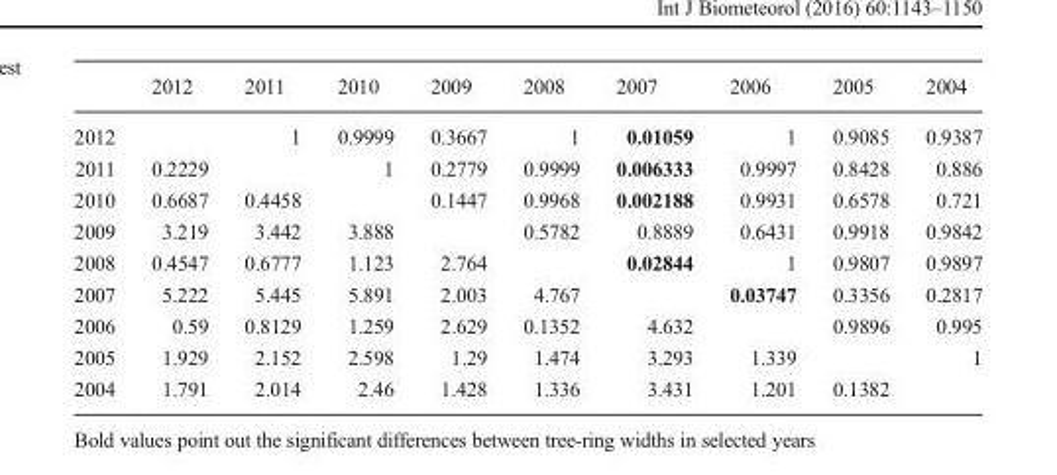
<table><thead><tr><td></td><td>2012</td><td>2011</td><td>2010</td><td>2009</td><td>2008</td><td>2007</td><td>2006</td><td>2005</td><td>2004</td></tr></thead><tbody><tr><td>2012</td><td></td><td>1</td><td>0.9999</td><td>0.3667</td><td>1</td><td>0.01059</td><td>1</td><td>0.9085</td><td>0.9387</td></tr><tr><td>2011</td><td>0.2229</td><td></td><td>1</td><td>0.2779</td><td>0.9999</td><td>0.006333</td><td>0.9997</td><td>0.8428</td><td>0.886</td></tr><tr><td>2010</td><td>0.6687</td><td>0.4458</td><td></td><td>0.1447</td><td>0.9968</td><td>0.002188</td><td>0.9931</td><td>0.6578</td><td>0.721</td></tr><tr><td>2009</td><td>3.219</td><td>3.442</td><td>3.888</td><td></td><td>0.5782</td><td>0.8889</td><td>0.6431</td><td>0.9918</td><td>0.9842</td></tr><tr><td>2008</td><td>0.4547</td><td>0.6777</td><td>1.123</td><td>2.764</td><td></td><td>0.02844</td><td>1</td><td>0.9807</td><td>0.9897</td></tr><tr><td>2007</td><td>5.222</td><td>5.445</td><td>5.891</td><td>2.003</td><td>4.767</td><td></td><td>0.03747</td><td>0.3356</td><td>0.2817</td></tr><tr><td>2006</td><td>0.59</td><td>0.8129</td><td>1.259</td><td>2.629</td><td>0.1352</td><td>4.632</td><td></td><td>0.9896</td><td>0.995</td></tr><tr><td>2005</td><td>1.929</td><td>2.152</td><td>2.598</td><td>1.29</td><td>1.474</td><td>3.293</td><td>1.339</td><td></td><td>1</td></tr><tr><td>2004</td><td>1.791</td><td>2.014</td><td>2.46</td><td>1.428</td><td>1.336</td><td>3.431</td><td>1.201</td><td>0.1382</td><td></td></tr></tbody></table>